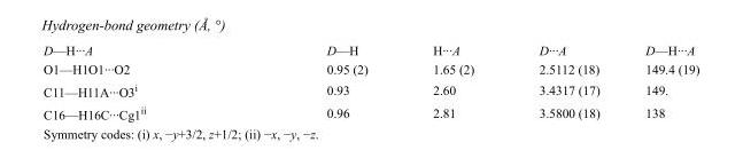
<table><tbody><tr><td>D—H···A</td><td>D—H</td><td>H···A</td><td>D···A</td><td>D—H···A</td></tr><tr><td>O1—H1O1···O2</td><td>0.95 (2)</td><td>1.65 (2)</td><td>2.5112 (18)</td><td>149.4 (19)</td></tr><tr><td>C11—H11A···O3<sup>i</sup></td><td>0.93</td><td>2.60</td><td>3.4317 (17)</td><td>149.</td></tr><tr><td>C16—H16C···Cg1<sup>ii</sup></td><td>0.96</td><td>2.81</td><td>3.5800 (18)</td><td>138</td></tr></tbody></table>